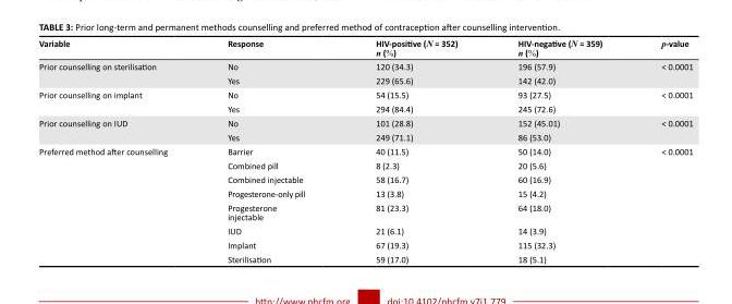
<table><thead><tr><td>Variable</td><td>Response</td><td>HIV-positive (N = 352) n (%)</td><td>HIV-negative (N = 359) n (%)</td><td>p-value</td></tr></thead><tbody><tr><td rowspan="2">Prior counselling on sterilisation</td><td>No</td><td>120 (34.3)</td><td>196 (57.9)</td><td>&lt; 0.0001</td></tr><tr><td>Yes</td><td>229 (65.6)</td><td>142 (42.0)</td><td></td></tr><tr><td rowspan="2">Prior counselling on implant</td><td>No</td><td>54 (15.5)</td><td>93 (27.5)</td><td>&lt; 0.0001</td></tr><tr><td>Yes</td><td>294 (84.4)</td><td>245 (72.6)</td><td></td></tr><tr><td rowspan="2">Prior counselling on IUD</td><td>No</td><td>101 (28.8)</td><td>152 (45.01)</td><td>&lt; 0.0001</td></tr><tr><td>Yes</td><td>249 (71.1)</td><td>86 (53.0)</td><td></td></tr><tr><td rowspan="8">Preferred method after counselling</td><td>Barrier</td><td>40 (11.5)</td><td>50 (14.0)</td><td>&lt; 0.0001</td></tr><tr><td>Combined pill</td><td>8 (2.3)</td><td>20 (5.6)</td><td></td></tr><tr><td>Combined injectable</td><td>58 (16.7)</td><td>60 (16.9)</td><td></td></tr><tr><td>Progesterone-only pill</td><td>13 (3.8)</td><td>15 (4.2)</td><td></td></tr><tr><td>Progesterone injectable</td><td>81 (23.3)</td><td>64 (18.0)</td><td></td></tr><tr><td>IUD</td><td>21 (6.1)</td><td>14 (3.9)</td><td></td></tr><tr><td>Implant</td><td>67 (19.3)</td><td>115 (32.3)</td><td></td></tr><tr><td>Sterilisation</td><td>59 (17.0)</td><td>18 (5.1)</td><td></td></tr></tbody></table>